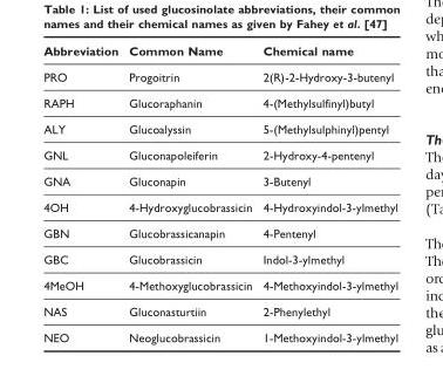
<table><thead><tr><td>Abbreviation</td><td>Common Name</td><td>Chemical name</td></tr></thead><tbody><tr><td>PRO</td><td>Progoitrin</td><td>2(R)-2-Hydroxy-3-butenyl</td></tr><tr><td>RAPH</td><td>Glucoraphanin</td><td>4-(Methylsulfinyl)butyl</td></tr><tr><td>ALY</td><td>Glucoalyssin</td><td>5-(Methylsulphinyl)pentyl</td></tr><tr><td>GNL</td><td>Gluconapoleiferin</td><td>2-Hydroxy-4-pentenyl</td></tr><tr><td>GNA</td><td>Gluconapin</td><td>3-Butenyl</td></tr><tr><td>4OH</td><td>4-Hydroxyglucobrassicin</td><td>4-Hydroxyindol-3-ylmethyl</td></tr><tr><td>GBN</td><td>Glucobrassicanapin</td><td>4-Pentenyl</td></tr><tr><td>GBC</td><td>Glucobrassicin</td><td>Indol-3-ylmethyl</td></tr><tr><td>4MeOH</td><td>4-Methoxyglucobrassicin</td><td>4-Methoxyindol-3-ylmethyl</td></tr><tr><td>NAS</td><td>Gluconasturtiin</td><td>2-Phenylethyl</td></tr><tr><td>NEO</td><td>Neoglucobrassicin</td><td>1-Methoxyindol-3-ylmethyl</td></tr></tbody></table>